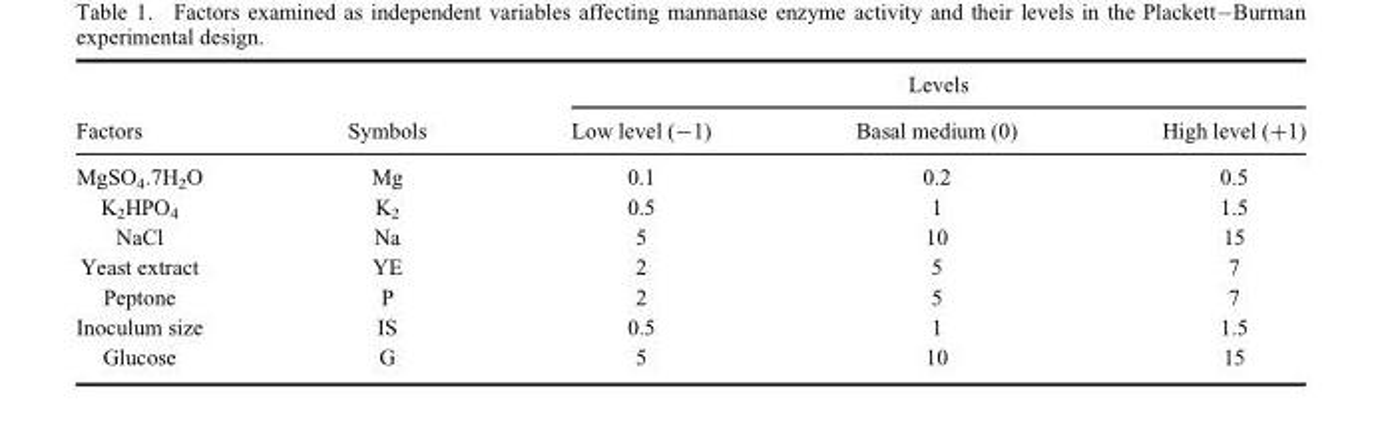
<table><thead><tr><td rowspan="2">Factors</td><td rowspan="2">Symbols</td><td colspan="3">Levels</td></tr><tr><td>Low level (−1)</td><td>Basal medium (0)</td><td>High level (+1)</td></tr></thead><tbody><tr><td>MgSO4:7H2O</td><td>Mg</td><td>0.1</td><td>0.2</td><td>0.5</td></tr><tr><td>K<sub>2</sub>HPO<sub>4</sub></td><td>K<sub>2</sub></td><td>0.5</td><td>1</td><td>1.5</td></tr><tr><td>NaCl</td><td>Na</td><td>5</td><td>10</td><td>15</td></tr><tr><td>Yeast extract</td><td>YE</td><td>2</td><td>5</td><td>7</td></tr><tr><td>Peptone</td><td>P</td><td>2</td><td>5</td><td>7</td></tr><tr><td>Inoculum size</td><td>IS</td><td>0.5</td><td>1</td><td>1.5</td></tr><tr><td>Glucose</td><td>G</td><td>5</td><td>10</td><td>15</td></tr></tbody></table>